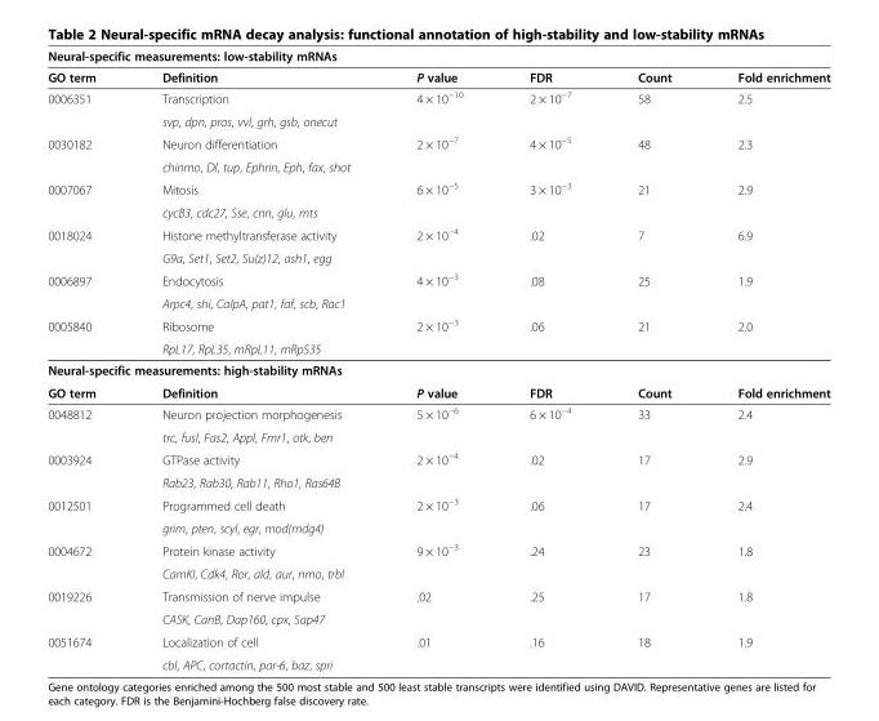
<table><thead><tr><td colspan="6">Neural-specific measurements: low-stability mRNAs</td></tr><tr><td>GO term</td><td>Definition</td><td>P value</td><td>FDR</td><td>Count</td><td>Fold enrichment</td></tr></thead><tbody><tr><td rowspan="2">0006351</td><td>Transcription</td><td>4 × 10<sup>−10</sup></td><td>2 × 10<sup>−7</sup></td><td>58</td><td>2.5</td></tr><tr><td>svp, dpn, pros, vvl, grh, gsb, onecut</td><td></td><td></td><td></td><td></td></tr><tr><td rowspan="2">0030182</td><td>Neuron differentiation</td><td>2 × 10<sup>−7</sup></td><td>4 × 10<sup>−5</sup></td><td>48</td><td>2.3</td></tr><tr><td>chinmo, Dl, tup, Ephrin, Eph, fax, shot</td><td></td><td></td><td></td><td></td></tr><tr><td rowspan="2">0007067</td><td>Mitosis</td><td>6 × 10<sup>−5</sup></td><td>3 × 10<sup>−3</sup></td><td>21</td><td>2.9</td></tr><tr><td>cycB3, cdc27, Sse, cnn, glu, mts</td><td></td><td></td><td></td><td></td></tr><tr><td rowspan="2">0018024</td><td>Histone methyltransferase activity</td><td>2 × 10<sup>−4</sup></td><td>.02</td><td>7</td><td>6.9</td></tr><tr><td>G9a, Set1, Set2, Su(z)12, ash1, egg</td><td></td><td></td><td></td><td></td></tr><tr><td rowspan="2">0006897</td><td>Endocytosis</td><td>4 × 10<sup>−3</sup></td><td>.08</td><td>25</td><td>1.9</td></tr><tr><td>Arpc4, shi, CalpA, pat1, faf, scb, Rac1</td><td></td><td></td><td></td><td></td></tr><tr><td rowspan="2">0005840</td><td>Ribosome</td><td>2 × 10<sup>−3</sup></td><td>.06</td><td>21</td><td>2.0</td></tr><tr><td>RpL17, RpL35, mRpL11, mRpS35</td><td></td><td></td><td></td><td></td></tr><tr><td colspan="6">Neural-specific measurements: high-stability mRNAs</td></tr><tr><td>GO term</td><td>Definition</td><td>P value</td><td>FDR</td><td>Count</td><td>Fold enrichment</td></tr><tr><td rowspan="2">0048812</td><td>Neuron projection morphogenesis</td><td>5 × 10<sup>−6</sup></td><td>6 × 10<sup>−4</sup></td><td>33</td><td>2.4</td></tr><tr><td>trc, fusl, Fas2, Appl, Fmr1, otk, ben</td><td></td><td></td><td></td><td></td></tr><tr><td rowspan="2">0003924</td><td>GTPase activity</td><td>2 × 10<sup>−4</sup></td><td>.02</td><td>17</td><td>2.9</td></tr><tr><td>Rab23, Rab30, Rab11, Rho1, Ras64B</td><td></td><td></td><td></td><td></td></tr><tr><td rowspan="2">0012501</td><td>Programmed cell death</td><td>2 × 10<sup>−3</sup></td><td>.06</td><td>17</td><td>2.4</td></tr><tr><td>grim, pten, scyl, egr, mod(mdg4)</td><td></td><td></td><td></td><td></td></tr><tr><td rowspan="2">0004672</td><td>Protein kinase activity</td><td>9 × 10<sup>−3</sup></td><td>.24</td><td>23</td><td>1.8</td></tr><tr><td>CamKI, Cdk4, Ror, ald, aur, nmo, trbl</td><td></td><td></td><td></td><td></td></tr><tr><td rowspan="2">0019226</td><td>Transmission of nerve impulse</td><td>.02</td><td>.25</td><td>17</td><td>1.8</td></tr><tr><td>CASK, CanB, Dap160, cpx, Sap47</td><td></td><td></td><td></td><td></td></tr><tr><td rowspan="2">0051674</td><td>Localization of cell</td><td>.01</td><td>.16</td><td>18</td><td>1.9</td></tr><tr><td>cbl, APC, cortactin, par-6, baz, spri</td><td></td><td></td><td></td><td></td></tr></tbody></table>